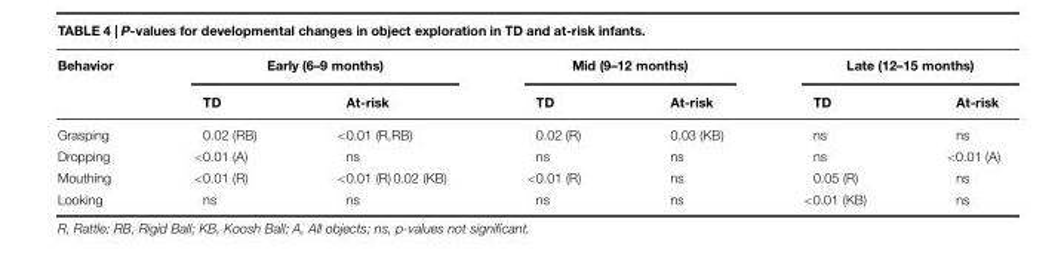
<table><thead><tr><td rowspan="2">Behavior</td><td colspan="2">Early (6–9 months)</td><td colspan="2">Mid (9–12 months)</td><td colspan="2">Late (12–15 months)</td></tr><tr><td>TD</td><td>At-risk</td><td>TD</td><td>At-risk</td><td>TD</td><td>At-risk</td></tr></thead><tbody><tr><td>Grasping</td><td>0.02 (RB)</td><td>&lt;0.01 (R,RB)</td><td>0.02 (R)</td><td>0.03 (KB)</td><td>ns</td><td>ns</td></tr><tr><td>Dropping</td><td>&lt;0.01 (A)</td><td>ns</td><td>ns</td><td>ns</td><td>ns</td><td>&lt;0.01 (A)</td></tr><tr><td>Mouthing</td><td>&lt;0.01 (R)</td><td>&lt;0.01 (R) 0.02 (KB)</td><td>&lt;0.01 (R)</td><td>ns</td><td>0.05 (R)</td><td>ns</td></tr><tr><td>Looking</td><td>ns</td><td>ns</td><td>ns</td><td>ns</td><td>&lt;0.01 (KB)</td><td>ns</td></tr></tbody></table>